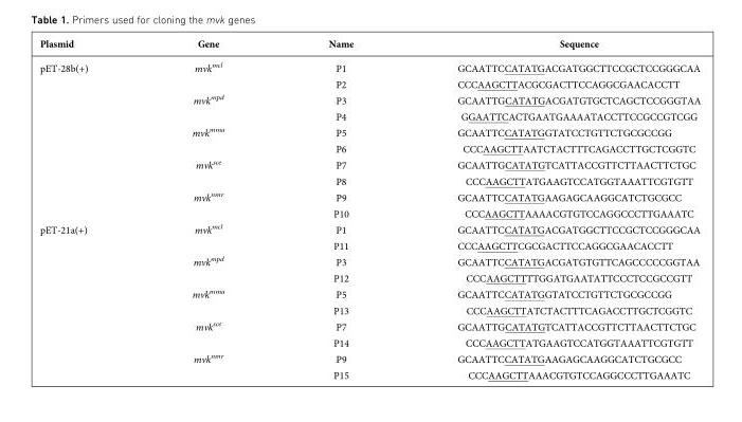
<table><thead><tr><td>Plasmid</td><td>Gene</td><td>Name</td><td>Sequence</td></tr></thead><tbody><tr><td rowspan="10">pET-28b(+)</td><td rowspan="2">mvk<sup>mcl</sup></td><td>P1</td><td>GCAATTCCATATGACGATGGCTTCCGCTCCGGGCAA</td></tr><tr><td>P2</td><td>CCCAAGCTTACGCGACTTCCAGGCGAACACCTT</td></tr><tr><td rowspan="2">mvk<sup>mpd</sup></td><td>P3</td><td>GCAATTGCATATGACGATGTGCTCAGCTCCGGGTAA</td></tr><tr><td>P4</td><td>GGAATTCACTGAATGAAAATACCTTCCGCCGTCGG</td></tr><tr><td rowspan="2">mvk<sup>mma</sup></td><td>P5</td><td>GCAATTCCATATGGTATCCTGTTCTGCGCCGG</td></tr><tr><td>P6</td><td>CCCAAGCTTAATCTACTTTCAGACCTTGCTCGGTC</td></tr><tr><td rowspan="2">mvk<sup>sce</sup></td><td>P7</td><td>GCAATTGCATATGTCATTACCGTTCTTAACTTCTGC</td></tr><tr><td>P8</td><td>CCCAAGCTTATGAAGTCCATGGTAAATTCGTGTT</td></tr><tr><td rowspan="2">mvk<sup>nmr</sup></td><td>P9</td><td>GCAATTCCATATGAAGAGCAAGGCATCTGCGCC</td></tr><tr><td>P10</td><td>CCCAAGCTTAAAACGTGTCCAGGCCCTTGAAATC</td></tr><tr><td rowspan="10">pET-21a(+)</td><td rowspan="2">mvk<sup>mcl</sup></td><td>P1</td><td>GCAATTCCATATGACGATGGCTTCCGCTCCGGGCAA</td></tr><tr><td>P11</td><td>CCCAAGCTTCGCGACTTCCAGGCGAACACCTT</td></tr><tr><td rowspan="2">mvk<sup>mpd</sup></td><td>P3</td><td>GCAATTCCATATGACGATGTGTTCAGCCCCCGGTAA</td></tr><tr><td>P12</td><td>CCCAAGCTTTTGGATGAATATTCCCTCCGCCGTT</td></tr><tr><td rowspan="2">mvk<sup>mma</sup></td><td>P5</td><td>GCAATTCCATATGGTATCCTGTTCTGCGCCGG</td></tr><tr><td>P13</td><td>CCCAAGCTTATCTACTTTCAGACCTTGCTCGGTC</td></tr><tr><td rowspan="2">mvk<sup>sce</sup></td><td>P7</td><td>GCAATTGCATATGTCATTACCGTTCTTAACTTCTGC</td></tr><tr><td>P14</td><td>CCCAAGCTTATGAAGTCCATGGTAAATTCGTGTT</td></tr><tr><td rowspan="2">mvk<sup>nmr</sup></td><td>P9</td><td>GCAATTCCATATGAAGAGCAAGGCATCTGCGCC</td></tr><tr><td>P15</td><td>CCCAAGCTTAAACGTGTCCAGGCCCTTGAAATC</td></tr></tbody></table>